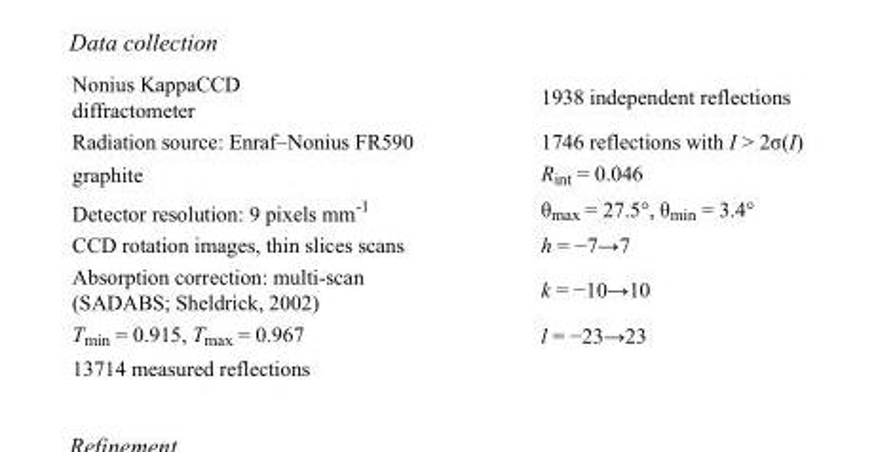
<table><tbody><tr><td>Nonius KappaCCD diffractometer</td><td>1938 independent reflections</td></tr><tr><td>Radiation source: Enraf–Nonius FR590</td><td>1746 reflections with I &gt; 2σ(I)</td></tr><tr><td>graphite</td><td>R<sub>int</sub> = 0.046</td></tr><tr><td>Detector resolution: 9 pixels mm<sup>-1</sup></td><td>θ<sub>max</sub> = 27.5°, θ<sub>min</sub> = 3.4°</td></tr><tr><td>CCD rotation images, thin slices scans</td><td>h = −7→7</td></tr><tr><td>Absorption correction: multi-scan (SADABS; Sheldrick, 2002)</td><td>k = −10→10</td></tr><tr><td>T<sub>min</sub> = 0.915, T<sub>max</sub> = 0.967</td><td>l = −23→23</td></tr><tr><td>13714 measured reflections</td><td></td></tr></tbody></table>